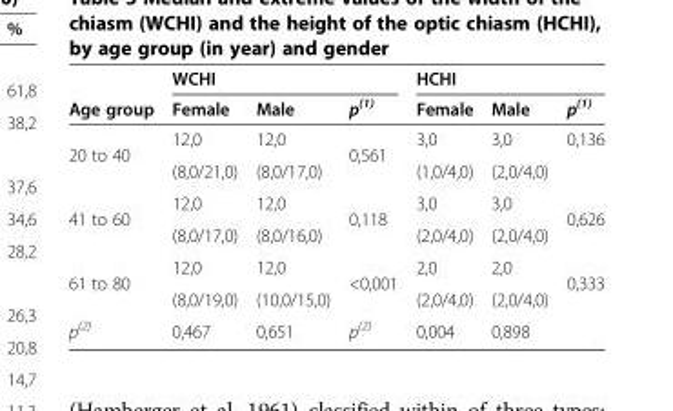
<table><thead><tr><td rowspan="2">Age group</td><td colspan="3">WCHI</td><td colspan="3">HCHI</td></tr><tr><td>Female</td><td>Male</td><td>p<sup>(1)</sup></td><td>Female</td><td>Male</td><td>p<sup>(1)</sup></td></tr></thead><tbody><tr><td rowspan="2">20 to 40</td><td>12,0</td><td>12,0</td><td rowspan="2">0,561</td><td>3,0</td><td>3,0</td><td rowspan="2">0,136</td></tr><tr><td>(8,0/21,0)</td><td>(8,0/17,0)</td><td>(1,0/4,0)</td><td>(2,0/4,0)</td></tr><tr><td rowspan="2">41 to 60</td><td>12,0</td><td>12,0</td><td rowspan="2">0,118</td><td>3,0</td><td>3,0</td><td rowspan="2">0,626</td></tr><tr><td>(8,0/17,0)</td><td>(8,0/16,0)</td><td>(2,0/4,0)</td><td>(2,0/4,0)</td></tr><tr><td rowspan="2">61 to 80</td><td>12,0</td><td>12,0</td><td rowspan="2">&lt;0,001</td><td>2,0</td><td>2,0</td><td rowspan="2">0,333</td></tr><tr><td>(8,0/19,0)</td><td>(10,0/15,0)</td><td>(2,0/4,0)</td><td>(2,0/4,0)</td></tr><tr><td>p<sup>(2)</sup></td><td>0,467</td><td>0,651</td><td>p<sup>(2)</sup></td><td>0,004</td><td>0,898</td><td></td></tr></tbody></table>